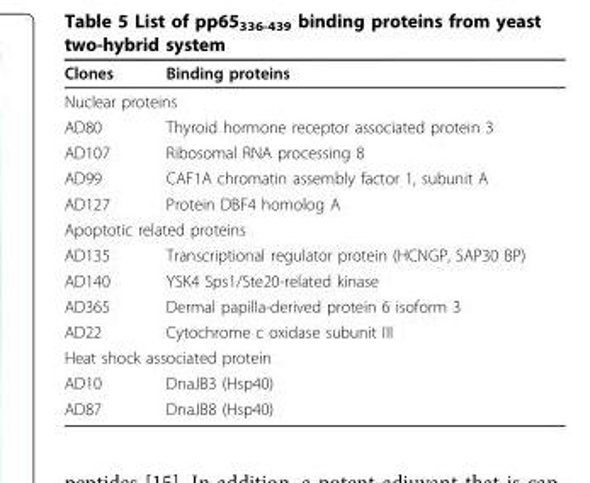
<table><thead><tr><td>Clones</td><td>Binding proteins</td></tr></thead><tbody><tr><td colspan="2">Nuclear proteins</td></tr><tr><td>AD80</td><td>Thyroid hormone receptor associated protein 3</td></tr><tr><td>AD107</td><td>Ribosomal RNA processing 8</td></tr><tr><td>AD99</td><td>CAF1A chromatin assembly factor 1, subunit A</td></tr><tr><td>AD127</td><td>Protein DBF4 homolog A</td></tr><tr><td colspan="2">Apoptotic related proteins</td></tr><tr><td>AD135</td><td>Transcriptional regulator protein (HCNGP, SAP30 BP)</td></tr><tr><td>AD140</td><td>YSK4 Sps1/Ste20-related kinase</td></tr><tr><td>AD365</td><td>Dermal papilla-derived protein 6 isoform 3</td></tr><tr><td>AD22</td><td>Cytochrome c oxidase subunit III</td></tr><tr><td colspan="2">Heat shock associated protein</td></tr><tr><td>AD10</td><td>DnaJB3 (Hsp40)</td></tr><tr><td>AD87</td><td>DnaJB8 (Hsp40)</td></tr></tbody></table>